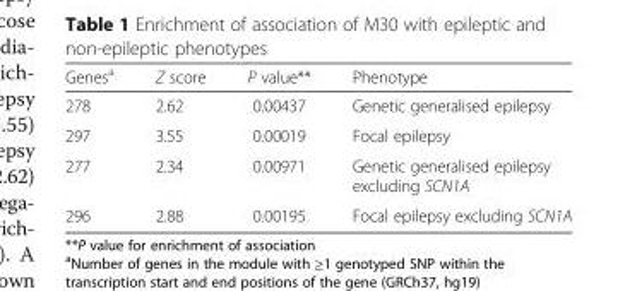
<table><thead><tr><td>Genes<sup>a</sup></td><td>Z score</td><td>P value**</td><td>Phenotype</td></tr></thead><tbody><tr><td>278</td><td>2.62</td><td>0.00437</td><td>Genetic generalised epilepsy</td></tr><tr><td>297</td><td>3.55</td><td>0.00019</td><td>Focal epilepsy</td></tr><tr><td>277</td><td>2.34</td><td>0.00971</td><td>Genetic generalised epilepsy excluding SCN1A</td></tr><tr><td>296</td><td>2.88</td><td>0.00195</td><td>Focal epilepsy excluding SCN1A</td></tr></tbody></table>